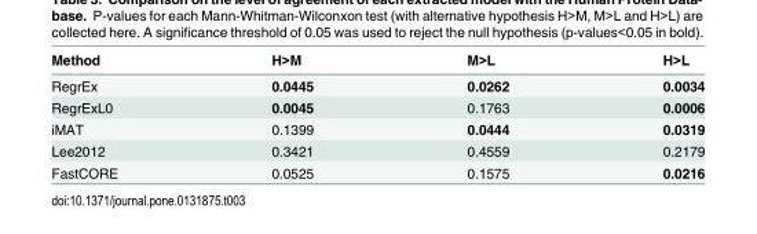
<table><thead><tr><td>Method</td><td>H&gt;M</td><td>M&gt;L</td><td>H&gt;L</td></tr></thead><tbody><tr><td>RegrEx</td><td>0.0445</td><td>0.0262</td><td>0.0034</td></tr><tr><td>RegrExL0</td><td>0.0045</td><td>0.1763</td><td>0.0006</td></tr><tr><td>iMAT</td><td>0.1399</td><td>0.0444</td><td>0.0319</td></tr><tr><td>Lee2012</td><td>0.3421</td><td>0.4559</td><td>0.2179</td></tr><tr><td>FastCORE</td><td>0.0525</td><td>0.1575</td><td>0.0216</td></tr></tbody></table>